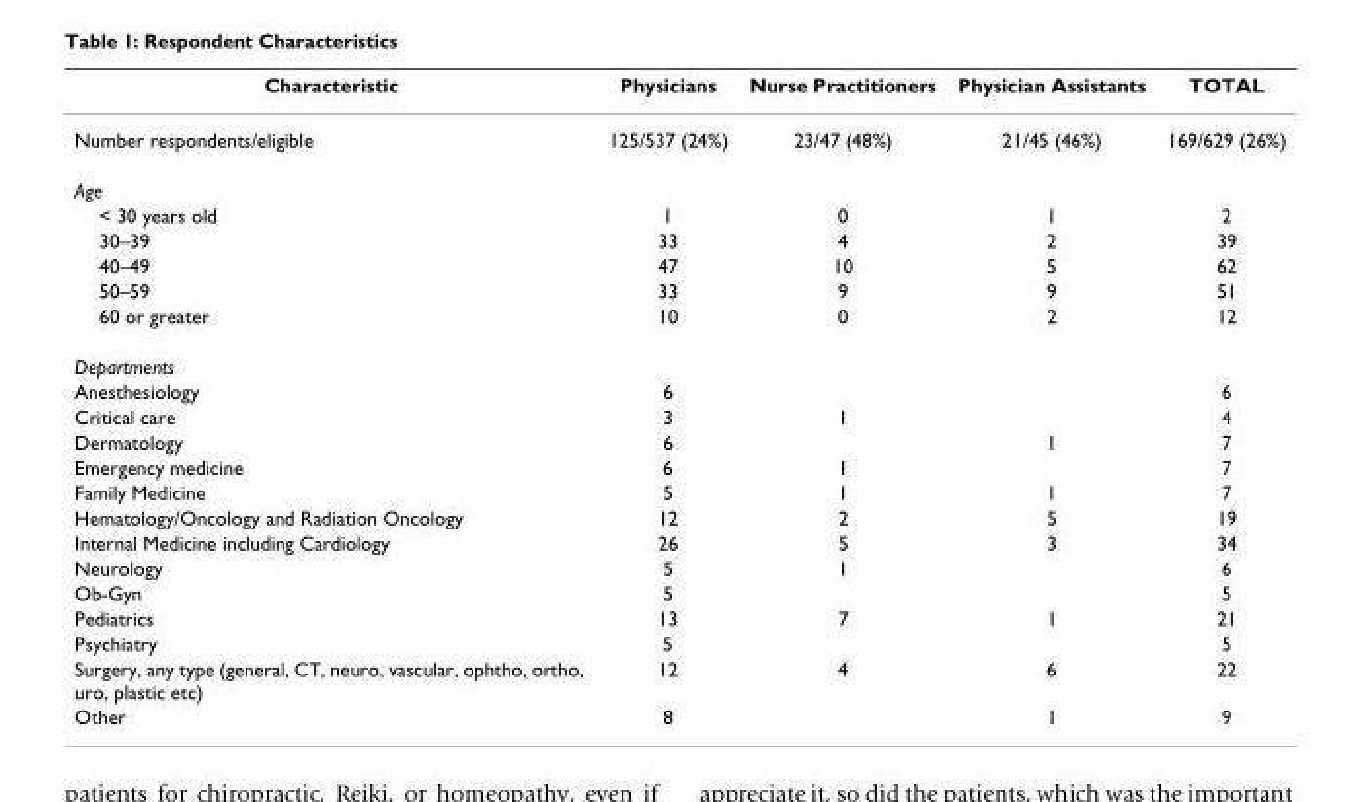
<table><thead><tr><td>Characteristic</td><td>Physicians</td><td>Nurse Practitioners</td><td>Physician Assistants</td><td>TOTAL</td></tr></thead><tbody><tr><td>Number respondents/eligible</td><td>125/537 (24%)</td><td>23/47 (48%)</td><td>21/45 (46%)</td><td>169/629 (26%)</td></tr><tr><td colspan="5">Age</td></tr><tr><td>&lt; 30 years old</td><td>1</td><td>0</td><td>1</td><td>2</td></tr><tr><td>30–39</td><td>33</td><td>4</td><td>2</td><td>39</td></tr><tr><td>40–49</td><td>47</td><td>10</td><td>5</td><td>62</td></tr><tr><td>50–59</td><td>33</td><td>9</td><td>9</td><td>51</td></tr><tr><td>60 or greater</td><td>10</td><td>0</td><td>2</td><td>12</td></tr><tr><td colspan="5">Departments</td></tr><tr><td>Anesthesiology</td><td>6</td><td></td><td></td><td>6</td></tr><tr><td>Critical care</td><td>3</td><td>1</td><td></td><td>4</td></tr><tr><td>Dermatology</td><td>6</td><td></td><td>1</td><td>7</td></tr><tr><td>Emergency medicine</td><td>6</td><td>1</td><td></td><td>7</td></tr><tr><td>Family Medicine</td><td>5</td><td>1</td><td>1</td><td>7</td></tr><tr><td>Hematology/Oncology and Radiation Oncology</td><td>12</td><td>2</td><td>5</td><td>19</td></tr><tr><td>Internal Medicine including Cardiology</td><td>26</td><td>5</td><td>3</td><td>34</td></tr><tr><td>Neurology</td><td>5</td><td>1</td><td></td><td>6</td></tr><tr><td>Ob-Gyn</td><td>5</td><td></td><td></td><td>5</td></tr><tr><td>Pediatrics</td><td>13</td><td>7</td><td>1</td><td>21</td></tr><tr><td>Psychiatry</td><td>5</td><td></td><td></td><td>5</td></tr><tr><td>Surgery, any type (general, CT, neuro, vascular, ophtho, ortho, uro, plastic etc)</td><td>12</td><td>4</td><td>6</td><td>22</td></tr><tr><td>Other</td><td>8</td><td></td><td>1</td><td>9</td></tr></tbody></table>